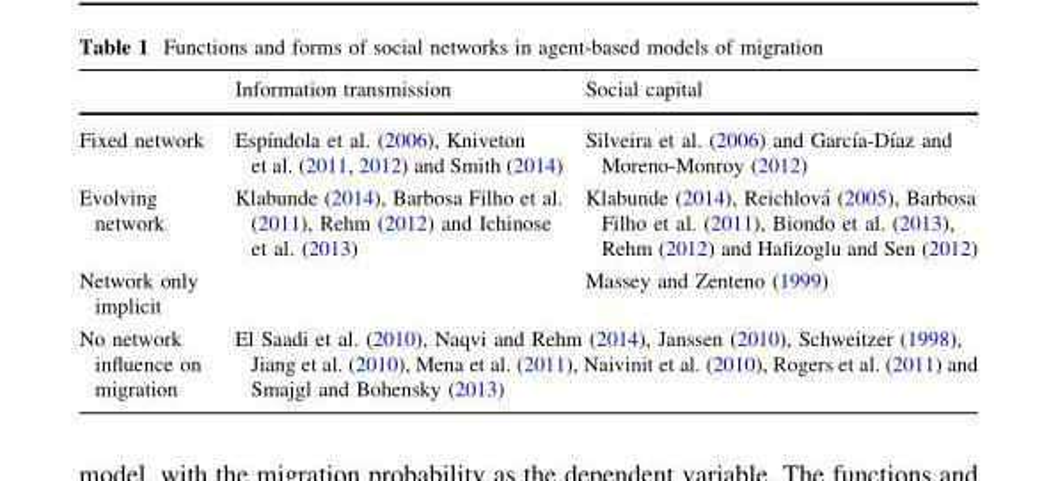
<table><thead><tr><td></td><td>Information transmission</td><td>Social capital</td></tr></thead><tbody><tr><td>Fixed network</td><td>Espı´ndola et al. (2006), Kniveton et al. (2011, 2012) and Smith (2014)</td><td>Silveira et al. (2006) and Garcı´a-Dı´az and Moreno-Monroy (2012)</td></tr><tr><td>Evolving network</td><td>Klabunde (2014), Barbosa Filho et al. (2011), Rehm (2012) and Ichinose et al. (2013)</td><td>Klabunde (2014), Reichlova´ (2005), Barbosa Filho et al. (2011), Biondo et al. (2013), Rehm (2012) and Hafizoglu and Sen (2012)</td></tr><tr><td>Network only implicit</td><td></td><td>Massey and Zenteno (1999)</td></tr><tr><td>No network influence on migration</td><td colspan="2">El Saadi et al. (2010), Naqvi and Rehm (2014), Janssen (2010), Schweitzer (1998), Jiang et al. (2010), Mena et al. (2011), Naivinit et al. (2010), Rogers et al. (2011) and Smajgl and Bohensky (2013)</td></tr></tbody></table>